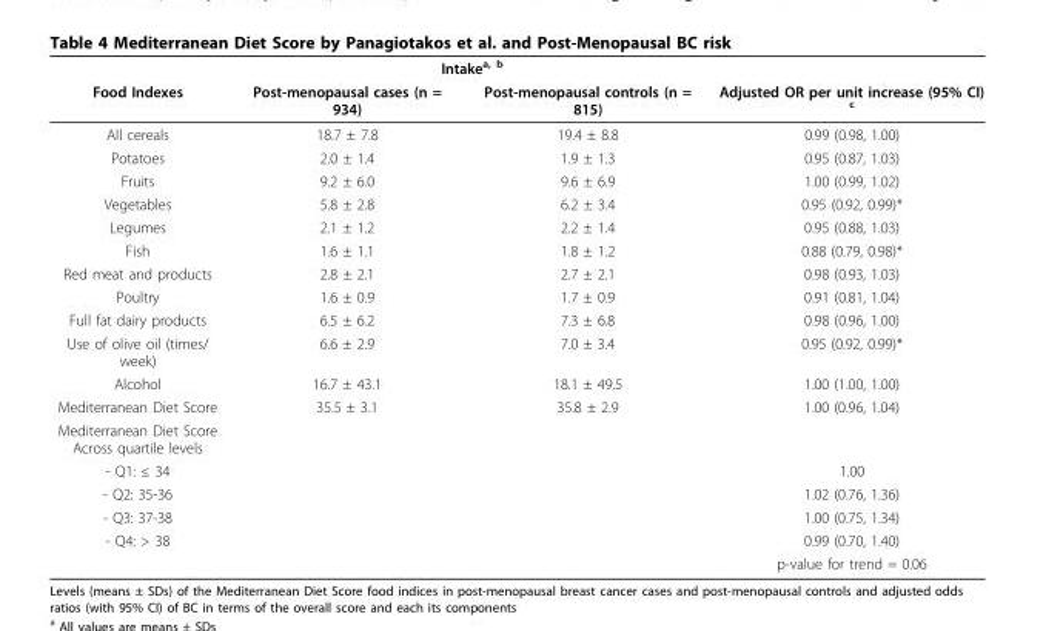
<table><thead><tr><td rowspan="2">Food Indexes</td><td colspan="2">Intake<sup>a, b</sup></td><td rowspan="2">Adjusted OR per unit increase (95% CI) <sup>c</sup></td></tr><tr><td>Post-menopausal cases (n = 934)</td><td>Post-menopausal controls (n = 815)</td></tr></thead><tbody><tr><td>All cereals</td><td>18.7 ± 7.8</td><td>19.4 ± 8.8</td><td>0.99 (0.98, 1.00)</td></tr><tr><td>Potatoes</td><td>2.0 ± 1.4</td><td>1.9 ± 1.3</td><td>0.95 (0.87, 1.03)</td></tr><tr><td>Fruits</td><td>9.2 ± 6.0</td><td>9.6 ± 6.9</td><td>1.00 (0.99, 1.02)</td></tr><tr><td>Vegetables</td><td>5.8 ± 2.8</td><td>6.2 ± 3.4</td><td>0.95 (0.92, 0.99)*</td></tr><tr><td>Legumes</td><td>2.1 ± 1.2</td><td>2.2 ± 1.4</td><td>0.95 (0.88, 1.03)</td></tr><tr><td>Fish</td><td>1.6 ± 1.1</td><td>1.8 ± 1.2</td><td>0.88 (0.79, 0.98)*</td></tr><tr><td>Red meat and products</td><td>2.8 ± 2.1</td><td>2.7 ± 2.1</td><td>0.98 (0.93, 1.03)</td></tr><tr><td>Poultry</td><td>1.6 ± 0.9</td><td>1.7 ± 0.9</td><td>0.91 (0.81, 1.04)</td></tr><tr><td>Full fat dairy products</td><td>6.5 ± 6.2</td><td>7.3 ± 6.8</td><td>0.98 (0.96, 1.00)</td></tr><tr><td>Use of olive oil (times/ week)</td><td>6.6 ± 2.9</td><td>7.0 ± 3.4</td><td>0.95 (0.92, 0.99)*</td></tr><tr><td>Alcohol</td><td>16.7 ± 43.1</td><td>18.1 ± 49.5</td><td>1.00 (1.00, 1.00)</td></tr><tr><td>Mediterranean Diet Score</td><td>35.5 ± 3.1</td><td>35.8 ± 2.9</td><td>1.00 (0.96, 1.04)</td></tr><tr><td colspan="4">Mediterranean Diet Score Across quartile levels</td></tr><tr><td>- Q1: ≤ 34</td><td></td><td></td><td>1.00</td></tr><tr><td>- Q2: 35-36</td><td></td><td></td><td>1.02 (0.76, 1.36)</td></tr><tr><td>- Q3: 37-38</td><td></td><td></td><td>1.00 (0.75, 1.34)</td></tr><tr><td rowspan="2">- Q4: &gt; 38</td><td></td><td></td><td>0.99 (0.70, 1.40)</td></tr><tr><td></td><td></td><td>p-value for trend = 0.06</td></tr></tbody></table>